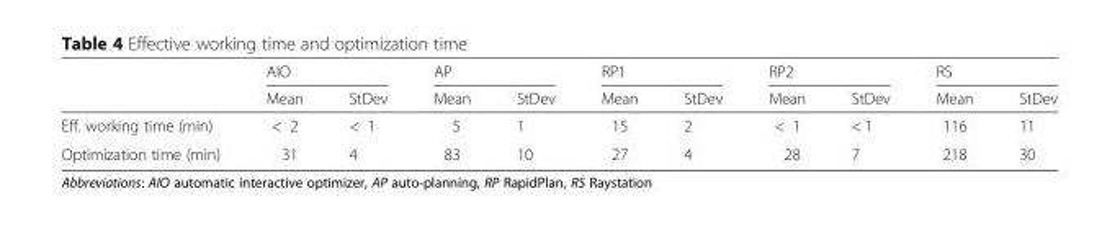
<table><thead><tr><td rowspan="2"></td><td colspan="2">AIO</td><td colspan="2">AP</td><td colspan="2">RP1</td><td colspan="2">RP2</td><td colspan="2">RS</td></tr><tr><td>Mean</td><td>StDev</td><td>Mean</td><td>StDev</td><td>Mean</td><td>StDev</td><td>Mean</td><td>StDev</td><td>Mean</td><td>StDev</td></tr></thead><tbody><tr><td>Eff. working time (min)</td><td>&lt; 2</td><td>&lt; 1</td><td>5</td><td>1</td><td>15</td><td>2</td><td>&lt; 1</td><td>&lt; 1</td><td>116</td><td>11</td></tr><tr><td>Optimization time (min)</td><td>31</td><td>4</td><td>83</td><td>10</td><td>27</td><td>4</td><td>28</td><td>7</td><td>218</td><td>30</td></tr></tbody></table>